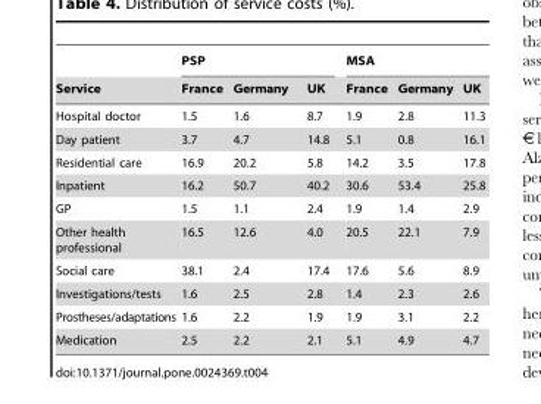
<table><thead><tr><td rowspan="2">Service</td><td colspan="3">PSP</td><td colspan="3">MSA</td></tr><tr><td>France</td><td>Germany</td><td>UK</td><td>France</td><td>Germany</td><td>UK</td></tr></thead><tbody><tr><td>Hospital doctor</td><td>1.5</td><td>1.6</td><td>8.7</td><td>1.9</td><td>2.8</td><td>11.3</td></tr><tr><td>Day patient</td><td>3.7</td><td>4.7</td><td>14.8</td><td>5.1</td><td>0.8</td><td>16.1</td></tr><tr><td>Residential care</td><td>16.9</td><td>20.2</td><td>5.8</td><td>14.2</td><td>3.5</td><td>17.8</td></tr><tr><td>Inpatient</td><td>16.2</td><td>50.7</td><td>40.2</td><td>30.6</td><td>53.4</td><td>25.8</td></tr><tr><td>GP</td><td>1.5</td><td>1.1</td><td>2.4</td><td>1.9</td><td>1.4</td><td>2.9</td></tr><tr><td>Other health professional</td><td>16.5</td><td>12.6</td><td>4.0</td><td>20.5</td><td>22.1</td><td>7.9</td></tr><tr><td>Social care</td><td>38.1</td><td>2.4</td><td>17.4</td><td>17.6</td><td>5.6</td><td>8.9</td></tr><tr><td>Investigations/tests</td><td>1.6</td><td>2.5</td><td>2.8</td><td>1.4</td><td>2.3</td><td>2.6</td></tr><tr><td>Prostheses/adaptations</td><td>1.6</td><td>2.2</td><td>1.9</td><td>1.9</td><td>3.1</td><td>2.2</td></tr><tr><td>Medication</td><td>2.5</td><td>2.2</td><td>2.1</td><td>5.1</td><td>4.9</td><td>4.7</td></tr></tbody></table>